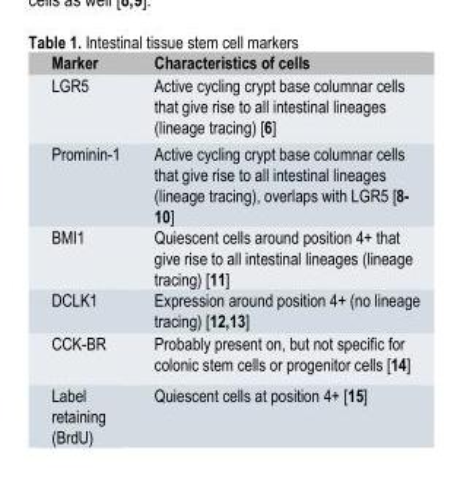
<table><thead><tr><td>Marker</td><td>Characteristics of cells</td></tr></thead><tbody><tr><td>LGR5</td><td>Active cycling crypt base columnar cells that give rise to all intestinal lineages (lineage tracing) [6]</td></tr><tr><td>Prominin-1</td><td>Active cycling crypt base columnar cells that give rise to all intestinal lineages (lineage tracing), overlaps with LGR5 [8- 10]</td></tr><tr><td>BMI1</td><td>Quiescent cells around position 4+ that give rise to all intestinal lineages (lineage tracing) [11]</td></tr><tr><td>DCLK1</td><td>Expression around position 4+ (no lineage tracing) [12,13]</td></tr><tr><td>CCK-BR</td><td>Probably present on, but not specific for colonic stem cells or progenitor cells [14]</td></tr><tr><td>Label retaining (BrdU)</td><td>Quiescent cells at position 4+ [15]</td></tr></tbody></table>